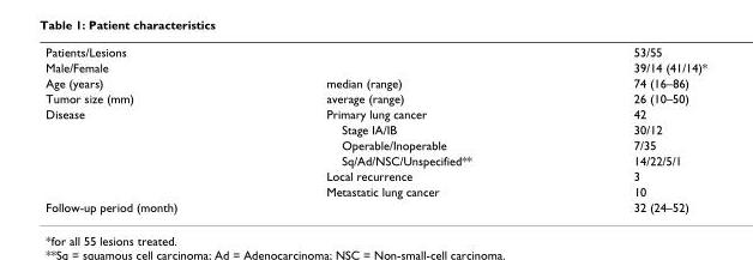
<table><tbody><tr><td>Patients/Lesions</td><td></td><td>53/55</td></tr><tr><td>Male/Female</td><td></td><td>39/14 (41/14)*</td></tr><tr><td>Age (years)</td><td>median (range)</td><td>74 (16–86)</td></tr><tr><td>Tumor size (mm)</td><td>average (range)</td><td>26 (10–50)</td></tr><tr><td rowspan="6">Disease</td><td>Primary lung cancer</td><td>42</td></tr><tr><td>Stage IA/IB</td><td>30/12</td></tr><tr><td>Operable/Inoperable</td><td>7/35</td></tr><tr><td>Sq/Ad/NSC/Unspecified**</td><td>14/22/5/1</td></tr><tr><td>Local recurrence</td><td>3</td></tr><tr><td>Metastatic lung cancer</td><td>10</td></tr><tr><td>Follow-up period (month)</td><td></td><td>32 (24–52)</td></tr></tbody></table>